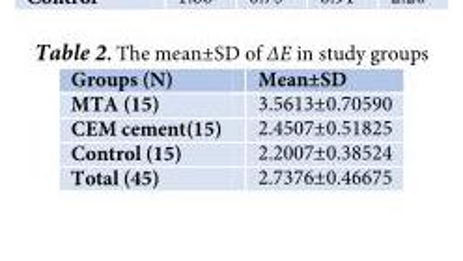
<table><thead><tr><td>Groups (N)</td><td>Mean±SD</td></tr></thead><tbody><tr><td>MTA (15)</td><td>3.5613±0.70590</td></tr><tr><td>CEM cement(15)</td><td>2.4507±0.51825</td></tr><tr><td>Control (15)</td><td>2.2007±0.38524</td></tr><tr><td>Total (45)</td><td>2.7376±0.46675</td></tr></tbody></table>